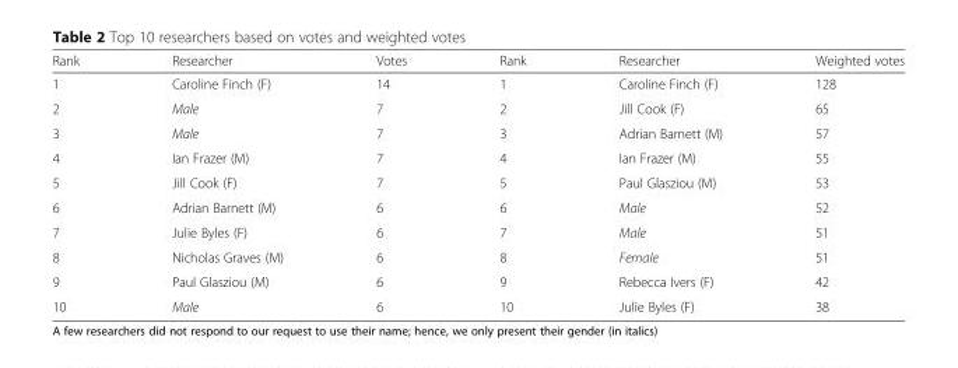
<table><thead><tr><td>Rank</td><td>Researcher</td><td>Votes</td><td>Rank</td><td>Researcher</td><td>Weighted votes</td></tr></thead><tbody><tr><td>1</td><td>Caroline Finch (F)</td><td>14</td><td>1</td><td>Caroline Finch (F)</td><td>128</td></tr><tr><td>2</td><td>Male</td><td>7</td><td>2</td><td>Jill Cook (F)</td><td>65</td></tr><tr><td>3</td><td>Male</td><td>7</td><td>3</td><td>Adrian Barnett (M)</td><td>57</td></tr><tr><td>4</td><td>Ian Frazer (M)</td><td>7</td><td>4</td><td>Ian Frazer (M)</td><td>55</td></tr><tr><td>5</td><td>Jill Cook (F)</td><td>7</td><td>5</td><td>Paul Glasziou (M)</td><td>53</td></tr><tr><td>6</td><td>Adrian Barnett (M)</td><td>6</td><td>6</td><td>Male</td><td>52</td></tr><tr><td>7</td><td>Julie Byles (F)</td><td>6</td><td>7</td><td>Male</td><td>51</td></tr><tr><td>8</td><td>Nicholas Graves (M)</td><td>6</td><td>8</td><td>Female</td><td>51</td></tr><tr><td>9</td><td>Paul Glasziou (M)</td><td>6</td><td>9</td><td>Rebecca Ivers (F)</td><td>42</td></tr><tr><td>10</td><td>Male</td><td>6</td><td>10</td><td>Julie Byles (F)</td><td>38</td></tr></tbody></table>